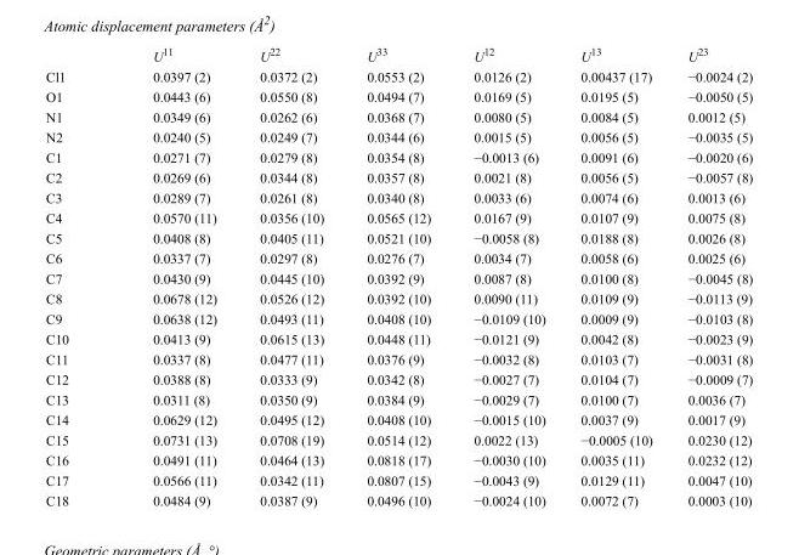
<table><thead><tr><td></td><td>U<sup>11</sup></td><td>U<sup>22</sup></td><td>U<sup>33</sup></td><td>U<sup>12</sup></td><td>U<sup>13</sup></td><td>U<sup>23</sup></td></tr></thead><tbody><tr><td>Cl1</td><td>0.0397 (2)</td><td>0.0372 (2)</td><td>0.0553 (2)</td><td>0.0126 (2)</td><td>0.00437 (17)</td><td>−0.0024 (2)</td></tr><tr><td>O1</td><td>0.0443 (6)</td><td>0.0550 (8)</td><td>0.0494 (7)</td><td>0.0169 (5)</td><td>0.0195 (5)</td><td>−0.0050 (5)</td></tr><tr><td>N1</td><td>0.0349 (6)</td><td>0.0262 (6)</td><td>0.0368 (7)</td><td>0.0080 (5)</td><td>0.0084 (5)</td><td>0.0012 (5)</td></tr><tr><td>N2</td><td>0.0240 (5)</td><td>0.0249 (7)</td><td>0.0344 (6)</td><td>0.0015 (5)</td><td>0.0056 (5)</td><td>−0.0035 (5)</td></tr><tr><td>C1</td><td>0.0271 (7)</td><td>0.0279 (8)</td><td>0.0354 (8)</td><td>−0.0013 (6)</td><td>0.0091 (6)</td><td>−0.0020 (6)</td></tr><tr><td>C2</td><td>0.0269 (6)</td><td>0.0344 (8)</td><td>0.0357 (8)</td><td>0.0021 (8)</td><td>0.0056 (5)</td><td>−0.0057 (8)</td></tr><tr><td>C3</td><td>0.0289 (7)</td><td>0.0261 (8)</td><td>0.0340 (8)</td><td>0.0033 (6)</td><td>0.0074 (6)</td><td>0.0013 (6)</td></tr><tr><td>C4</td><td>0.0570 (11)</td><td>0.0356 (10)</td><td>0.0565 (12)</td><td>0.0167 (9)</td><td>0.0107 (9)</td><td>0.0075 (8)</td></tr><tr><td>C5</td><td>0.0408 (8)</td><td>0.0405 (11)</td><td>0.0521 (10)</td><td>−0.0058 (8)</td><td>0.0188 (8)</td><td>0.0026 (8)</td></tr><tr><td>C6</td><td>0.0337 (7)</td><td>0.0297 (8)</td><td>0.0276 (7)</td><td>0.0034 (7)</td><td>0.0058 (6)</td><td>0.0025 (6)</td></tr><tr><td>C7</td><td>0.0430 (9)</td><td>0.0445 (10)</td><td>0.0392 (9)</td><td>0.0087 (8)</td><td>0.0100 (8)</td><td>−0.0045 (8)</td></tr><tr><td>C8</td><td>0.0678 (12)</td><td>0.0526 (12)</td><td>0.0392 (10)</td><td>0.0090 (11)</td><td>0.0109 (9)</td><td>−0.0113 (9)</td></tr><tr><td>C9</td><td>0.0638 (12)</td><td>0.0493 (11)</td><td>0.0408 (10)</td><td>−0.0109 (10)</td><td>0.0009 (9)</td><td>−0.0103 (8)</td></tr><tr><td>C10</td><td>0.0413 (9)</td><td>0.0615 (13)</td><td>0.0448 (11)</td><td>−0.0121 (9)</td><td>0.0042 (8)</td><td>−0.0023 (9)</td></tr><tr><td>C11</td><td>0.0337 (8)</td><td>0.0477 (11)</td><td>0.0376 (9)</td><td>−0.0032 (8)</td><td>0.0103 (7)</td><td>−0.0031 (8)</td></tr><tr><td>C12</td><td>0.0388 (8)</td><td>0.0333 (9)</td><td>0.0342 (8)</td><td>−0.0027 (7)</td><td>0.0104 (7)</td><td>−0.0009 (7)</td></tr><tr><td>C13</td><td>0.0311 (8)</td><td>0.0350 (9)</td><td>0.0384 (9)</td><td>−0.0029 (7)</td><td>0.0100 (7)</td><td>0.0036 (7)</td></tr><tr><td>C14</td><td>0.0629 (12)</td><td>0.0495 (12)</td><td>0.0408 (10)</td><td>−0.0015 (10)</td><td>0.0037 (9)</td><td>0.0017 (9)</td></tr><tr><td>C15</td><td>0.0731 (13)</td><td>0.0708 (19)</td><td>0.0514 (12)</td><td>0.0022 (13)</td><td>−0.0005 (10)</td><td>0.0230 (12)</td></tr><tr><td>C16</td><td>0.0491 (11)</td><td>0.0464 (13)</td><td>0.0818 (17)</td><td>−0.0030 (10)</td><td>0.0035 (11)</td><td>0.0232 (12)</td></tr><tr><td>C17</td><td>0.0566 (11)</td><td>0.0342 (11)</td><td>0.0807 (15)</td><td>−0.0043 (9)</td><td>0.0129 (11)</td><td>0.0047 (10)</td></tr><tr><td>C18</td><td>0.0484 (9)</td><td>0.0387 (9)</td><td>0.0496 (10)</td><td>−0.0024 (10)</td><td>0.0072 (7)</td><td>0.0003 (10)</td></tr></tbody></table>